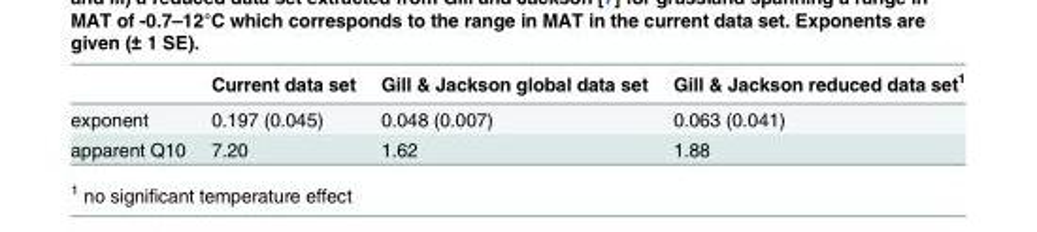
<table><thead><tr><td></td><td>Current data set</td><td>Gill &amp; Jackson global data set</td><td>Gill &amp; Jackson reduced data set<sup>1</sup></td></tr></thead><tbody><tr><td>exponent</td><td>0.197 (0.045)</td><td>0.048 (0.007)</td><td>0.063 (0.041)</td></tr><tr><td>apparent Q10</td><td>7.20</td><td>1.62</td><td>1.88</td></tr></tbody></table>